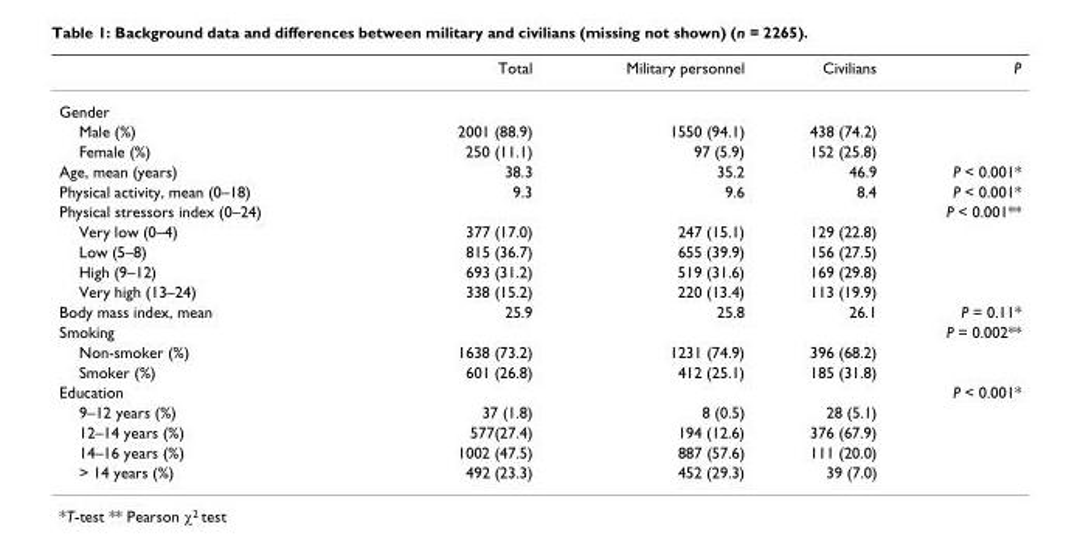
<table><thead><tr><td></td><td>Total</td><td>Military personnel</td><td>Civilians</td><td>P</td></tr></thead><tbody><tr><td colspan="5">Gender</td></tr><tr><td>Male (%)</td><td>2001 (88.9)</td><td>1550 (94.1)</td><td>438 (74.2)</td><td></td></tr><tr><td>Female (%)</td><td>250 (11.1)</td><td>97 (5.9)</td><td>152 (25.8)</td><td></td></tr><tr><td>Age, mean (years)</td><td>38.3</td><td>35.2</td><td>46.9</td><td>P &lt; 0.001*</td></tr><tr><td>Physical activity, mean (0–18)</td><td>9.3</td><td>9.6</td><td>8.4</td><td>P &lt; 0.001*</td></tr><tr><td>Physical stressors index (0–24)</td><td></td><td></td><td></td><td>P &lt; 0.001**</td></tr><tr><td>Very low (0–4)</td><td>377 (17.0)</td><td>247 (15.1)</td><td>129 (22.8)</td><td></td></tr><tr><td>Low (5–8)</td><td>815 (36.7)</td><td>655 (39.9)</td><td>156 (27.5)</td><td></td></tr><tr><td>High (9–12)</td><td>693 (31.2)</td><td>519 (31.6)</td><td>169 (29.8)</td><td></td></tr><tr><td>Very high (13–24)</td><td>338 (15.2)</td><td>220 (13.4)</td><td>113 (19.9)</td><td></td></tr><tr><td>Body mass index, mean</td><td>25.9</td><td>25.8</td><td>26.1</td><td>P = 0.11*</td></tr><tr><td>Smoking</td><td></td><td></td><td></td><td>P = 0.002**</td></tr><tr><td>Non-smoker (%)</td><td>1638 (73.2)</td><td>1231 (74.9)</td><td>396 (68.2)</td><td></td></tr><tr><td>Smoker (%)</td><td>601 (26.8)</td><td>412 (25.1)</td><td>185 (31.8)</td><td></td></tr><tr><td>Education</td><td></td><td></td><td></td><td>P &lt; 0.001*</td></tr><tr><td>9–12 years (%)</td><td>37 (1.8)</td><td>8 (0.5)</td><td>28 (5.1)</td><td></td></tr><tr><td>12–14 years (%)</td><td>577(27.4)</td><td>194 (12.6)</td><td>376 (67.9)</td><td></td></tr><tr><td>14–16 years (%)</td><td>1002 (47.5)</td><td>887 (57.6)</td><td>111 (20.0)</td><td></td></tr><tr><td>&gt; 14 years (%)</td><td>492 (23.3)</td><td>452 (29.3)</td><td>39 (7.0)</td><td></td></tr></tbody></table>